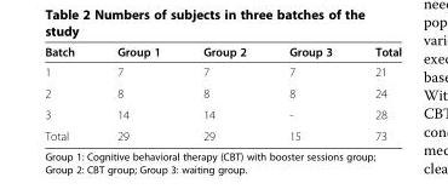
<table><thead><tr><td>Batch</td><td>Group 1</td><td>Group 2</td><td>Group 3</td><td>Total</td></tr></thead><tbody><tr><td>1</td><td>7</td><td>7</td><td>7</td><td>21</td></tr><tr><td>2</td><td>8</td><td>8</td><td>8</td><td>24</td></tr><tr><td>3</td><td>14</td><td>14</td><td>-</td><td>28</td></tr><tr><td>Total</td><td>29</td><td>29</td><td>15</td><td>73</td></tr></tbody></table>